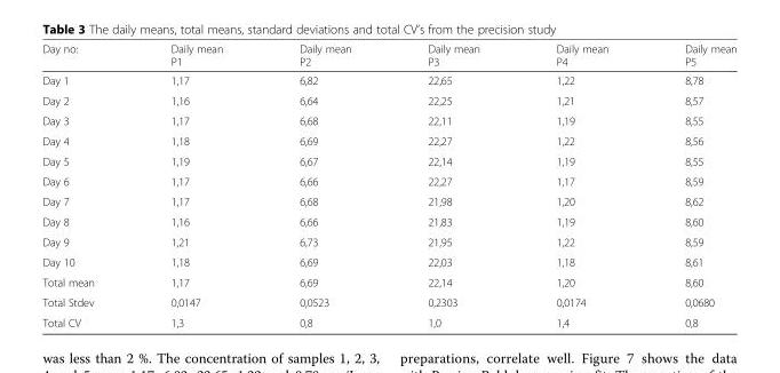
<table><thead><tr><td>Day no:</td><td>Daily mean P1</td><td>Daily mean P2</td><td>Daily mean P3</td><td>Daily mean P4</td><td>Daily mean P5</td></tr></thead><tbody><tr><td>Day 1</td><td>1,17</td><td>6,82</td><td>22,65</td><td>1,22</td><td>8,78</td></tr><tr><td>Day 2</td><td>1,16</td><td>6,64</td><td>22,25</td><td>1,21</td><td>8,57</td></tr><tr><td>Day 3</td><td>1,17</td><td>6,68</td><td>22,11</td><td>1,19</td><td>8,55</td></tr><tr><td>Day 4</td><td>1,18</td><td>6,69</td><td>22,27</td><td>1,22</td><td>8,56</td></tr><tr><td>Day 5</td><td>1,19</td><td>6,67</td><td>22,14</td><td>1,19</td><td>8,55</td></tr><tr><td>Day 6</td><td>1,17</td><td>6,66</td><td>22,27</td><td>1,17</td><td>8,59</td></tr><tr><td>Day 7</td><td>1,17</td><td>6,68</td><td>21,98</td><td>1,20</td><td>8,62</td></tr><tr><td>Day 8</td><td>1,16</td><td>6,66</td><td>21,83</td><td>1,19</td><td>8,60</td></tr><tr><td>Day 9</td><td>1,21</td><td>6,73</td><td>21,95</td><td>1,22</td><td>8,59</td></tr><tr><td>Day 10</td><td>1,18</td><td>6,69</td><td>22,03</td><td>1,18</td><td>8,61</td></tr><tr><td>Total mean</td><td>1,17</td><td>6,69</td><td>22,14</td><td>1,20</td><td>8,60</td></tr><tr><td>Total Stdev</td><td>0,0147</td><td>0,0523</td><td>0,2303</td><td>0,0174</td><td>0,0680</td></tr><tr><td>Total CV</td><td>1,3</td><td>0,8</td><td>1,0</td><td>1,4</td><td>0,8</td></tr></tbody></table>